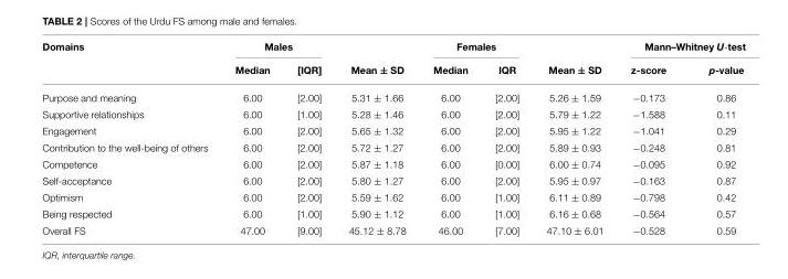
<table><thead><tr><td rowspan="2">Domains</td><td colspan="2">Males</td><td rowspan="2">Mean ± SD</td><td colspan="2">Females</td><td rowspan="2">Mean ± SD</td><td colspan="2">Mann–Whitney U-test</td></tr><tr><td>Median</td><td>[IQR]</td><td>Median</td><td>IQR</td><td>z-score</td><td>p-value</td></tr></thead><tbody><tr><td>Purpose and meaning</td><td>6.00</td><td>[2.00]</td><td>5.31 ± 1.66</td><td>6.00</td><td>[2.00]</td><td>5.26 ± 1.59</td><td>−0.173</td><td>0.86</td></tr><tr><td>Supportive relationships</td><td>6.00</td><td>[1.00]</td><td>5.28 ± 1.46</td><td>6.00</td><td>[2.00]</td><td>5.79 ± 1.22</td><td>−1.588</td><td>0.11</td></tr><tr><td>Engagement</td><td>6.00</td><td>[2.00]</td><td>5.65 ± 1.32</td><td>6.00</td><td>[2.00]</td><td>5.95 ± 1.22</td><td>−1.041</td><td>0.29</td></tr><tr><td>Contribution to the well-being of others</td><td>6.00</td><td>[2.00]</td><td>5.72 ± 1.27</td><td>6.00</td><td>[2.00]</td><td>5.89 ± 0.93</td><td>−0.248</td><td>0.81</td></tr><tr><td>Competence</td><td>6.00</td><td>[2.00]</td><td>5.87 ± 1.18</td><td>6.00</td><td>[0.00]</td><td>6.00 ± 0.74</td><td>−0.095</td><td>0.92</td></tr><tr><td>Self-acceptance</td><td>6.00</td><td>[2.00]</td><td>5.80 ± 1.27</td><td>6.00</td><td>[2.00]</td><td>5.95 ± 0.97</td><td>−0.163</td><td>0.87</td></tr><tr><td>Optimism</td><td>6.00</td><td>[2.00]</td><td>5.59 ± 1.62</td><td>6.00</td><td>[1.00]</td><td>6.11 ± 0.89</td><td>−0.798</td><td>0.42</td></tr><tr><td>Being respected</td><td>6.00</td><td>[1.00]</td><td>5.90 ± 1.12</td><td>6.00</td><td>[1.00]</td><td>6.16 ± 0.68</td><td>−0.564</td><td>0.57</td></tr><tr><td>Overall FS</td><td>47.00</td><td>[9.00]</td><td>45.12 ± 8.78</td><td>46.00</td><td>[7.00]</td><td>47.10 ± 6.01</td><td>−0.528</td><td>0.59</td></tr></tbody></table>